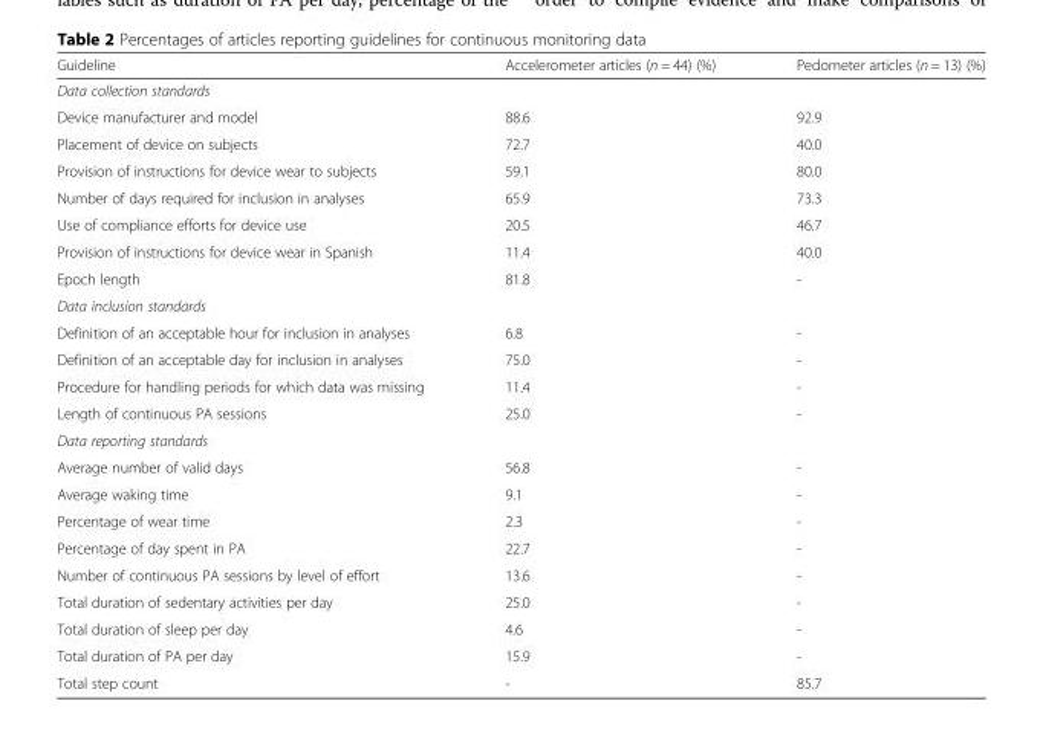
<table><thead><tr><td>Guideline</td><td>Accelerometer articles (n = 44) (%)</td><td>Pedometer articles (n = 13) (%)</td></tr></thead><tbody><tr><td colspan="3">Data collection standards</td></tr><tr><td>Device manufacturer and model</td><td>88.6</td><td>92.9</td></tr><tr><td>Placement of device on subjects</td><td>72.7</td><td>40.0</td></tr><tr><td>Provision of instructions for device wear to subjects</td><td>59.1</td><td>80.0</td></tr><tr><td>Number of days required for inclusion in analyses</td><td>65.9</td><td>73.3</td></tr><tr><td>Use of compliance efforts for device use</td><td>20.5</td><td>46.7</td></tr><tr><td>Provision of instructions for device wear in Spanish</td><td>11.4</td><td>40.0</td></tr><tr><td>Epoch length</td><td>81.8</td><td>-</td></tr><tr><td colspan="3">Data inclusion standards</td></tr><tr><td>Definition of an acceptable hour for inclusion in analyses</td><td>6.8</td><td>-</td></tr><tr><td>Definition of an acceptable day for inclusion in analyses</td><td>75.0</td><td>-</td></tr><tr><td>Procedure for handling periods for which data was missing</td><td>11.4</td><td>-</td></tr><tr><td>Length of continuous PA sessions</td><td>25.0</td><td>-</td></tr><tr><td colspan="3">Data reporting standards</td></tr><tr><td>Average number of valid days</td><td>56.8</td><td>-</td></tr><tr><td>Average waking time</td><td>9.1</td><td>-</td></tr><tr><td>Percentage of wear time</td><td>2.3</td><td>-</td></tr><tr><td>Percentage of day spent in PA</td><td>22.7</td><td>-</td></tr><tr><td>Number of continuous PA sessions by level of effort</td><td>13.6</td><td>-</td></tr><tr><td>Total duration of sedentary activities per day</td><td>25.0</td><td>-</td></tr><tr><td>Total duration of sleep per day</td><td>4.6</td><td>-</td></tr><tr><td>Total duration of PA per day</td><td>15.9</td><td>-</td></tr><tr><td>Total step count</td><td>-</td><td>85.7</td></tr></tbody></table>